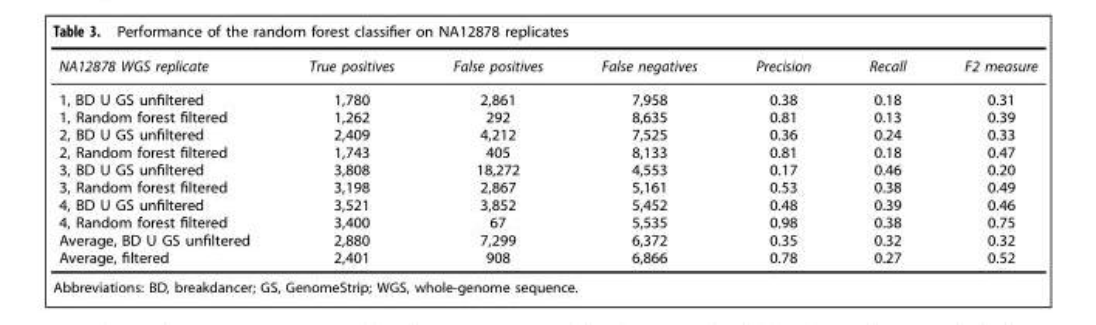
<table><thead><tr><td>NA12878 WGS replicate</td><td>True positives</td><td>False positives</td><td>False negatives</td><td>Precision</td><td>Recall</td><td>F2 measure</td></tr></thead><tbody><tr><td>1, BD U GS unfiltered</td><td>1,780</td><td>2,861</td><td>7,958</td><td>0.38</td><td>0.18</td><td>0.31</td></tr><tr><td>1, Random forest filtered</td><td>1,262</td><td>292</td><td>8,635</td><td>0.81</td><td>0.13</td><td>0.39</td></tr><tr><td>2, BD U GS unfiltered</td><td>2,409</td><td>4,212</td><td>7,525</td><td>0.36</td><td>0.24</td><td>0.33</td></tr><tr><td>2, Random forest filtered</td><td>1,743</td><td>405</td><td>8,133</td><td>0.81</td><td>0.18</td><td>0.47</td></tr><tr><td>3, BD U GS unfiltered</td><td>3,808</td><td>18,272</td><td>4,553</td><td>0.17</td><td>0.46</td><td>0.20</td></tr><tr><td>3, Random forest filtered</td><td>3,198</td><td>2,867</td><td>5,161</td><td>0.53</td><td>0.38</td><td>0.49</td></tr><tr><td>4, BD U GS unfiltered</td><td>3,521</td><td>3,852</td><td>5,452</td><td>0.48</td><td>0.39</td><td>0.46</td></tr><tr><td>4, Random forest filtered</td><td>3,400</td><td>67</td><td>5,535</td><td>0.98</td><td>0.38</td><td>0.75</td></tr><tr><td>Average, BD U GS unfiltered</td><td>2,880</td><td>7,299</td><td>6,372</td><td>0.35</td><td>0.32</td><td>0.32</td></tr><tr><td>Average, filtered</td><td>2,401</td><td>908</td><td>6,866</td><td>0.78</td><td>0.27</td><td>0.52</td></tr></tbody></table>